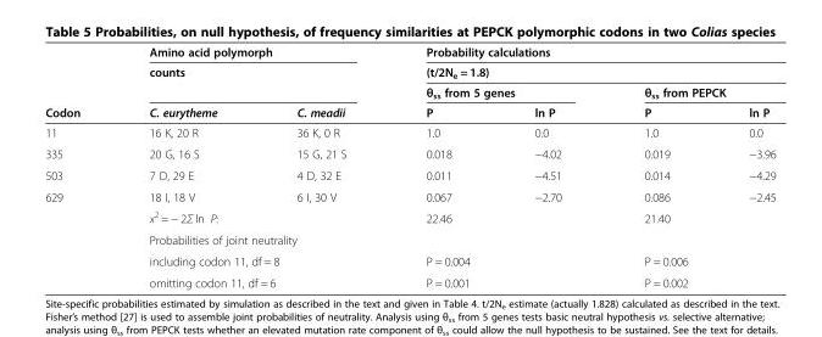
<table><thead><tr><td rowspan="4">Codon</td><td rowspan="2" colspan="2">Amino acid polymorph counts</td><td rowspan="2" colspan="4">Probability calculations (t/2N<sub>e</sub> = 1.8)</td></tr><tr></tr><tr><td rowspan="2">C. eurytheme</td><td rowspan="2">C. meadii</td><td colspan="2">θ<sub>ss</sub> from 5 genes</td><td colspan="2">θ<sub>ss</sub> from PEPCK</td></tr><tr><td>P</td><td>ln P</td><td>P</td><td>ln P</td></tr></thead><tbody><tr><td>11</td><td>16 K, 20 R</td><td>36 K, 0 R</td><td>1.0</td><td>0.0</td><td>1.0</td><td>0.0</td></tr><tr><td>335</td><td>20 G, 16 S</td><td>15 G, 21 S</td><td>0.018</td><td>−4.02</td><td>0.019</td><td>−3.96</td></tr><tr><td>503</td><td>7 D, 29 E</td><td>4 D, 32 E</td><td>0.011</td><td>−4.51</td><td>0.014</td><td>−4.29</td></tr><tr><td rowspan="5">629</td><td>18 I, 18 V</td><td>6 I, 30 V</td><td>0.067</td><td>−2.70</td><td>0.086</td><td>−2.45</td></tr><tr><td colspan="2">x<sup>2</sup> = − 2Σ ln P:</td><td colspan="2">22.46</td><td colspan="2">21.40</td></tr><tr><td colspan="2">Probabilities of joint neutrality</td><td colspan="2"></td><td colspan="2"></td></tr><tr><td colspan="2">including codon 11, df = 8</td><td colspan="2">P = 0.004</td><td colspan="2">P = 0.006</td></tr><tr><td colspan="2">omitting codon 11, df = 6</td><td colspan="2">P = 0.001</td><td colspan="2">P = 0.002</td></tr></tbody></table>